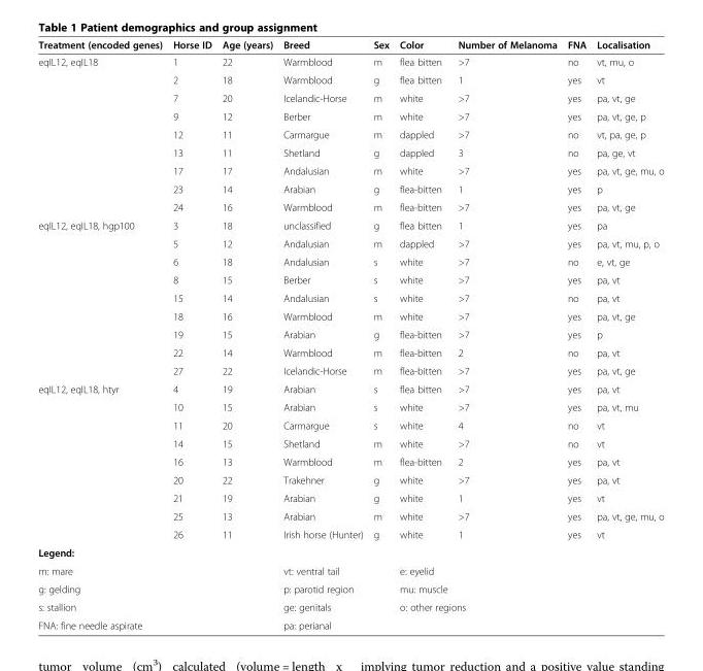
<table><thead><tr><td>Treatment (encoded genes)</td><td>Horse ID</td><td>Age (years)</td><td>Breed</td><td>Sex</td><td>Color</td><td>Number of Melanoma</td><td>FNA</td><td>Localisation</td></tr></thead><tbody><tr><td rowspan="9">eqIL12, eqIL18</td><td>1</td><td>22</td><td>Warmblood</td><td>m</td><td>flea bitten</td><td>&gt;7</td><td>no</td><td>vt, mu, o</td></tr><tr><td>2</td><td>18</td><td>Warmblood</td><td>g</td><td>flea bitten</td><td>1</td><td>yes</td><td>vt</td></tr><tr><td>7</td><td>20</td><td>Icelandic-Horse</td><td>m</td><td>white</td><td>&gt;7</td><td>yes</td><td>pa, vt, ge</td></tr><tr><td>9</td><td>12</td><td>Berber</td><td>m</td><td>white</td><td>&gt;7</td><td>yes</td><td>pa, vt, ge, p</td></tr><tr><td>12</td><td>11</td><td>Carmargue</td><td>m</td><td>dappled</td><td>&gt;7</td><td>no</td><td>vt, pa, ge, p</td></tr><tr><td>13</td><td>11</td><td>Shetland</td><td>g</td><td>dappled</td><td>3</td><td>no</td><td>pa, ge, vt</td></tr><tr><td>17</td><td>17</td><td>Andalusian</td><td>m</td><td>white</td><td>&gt;7</td><td>yes</td><td>pa, vt, ge, mu, o</td></tr><tr><td>23</td><td>14</td><td>Arabian</td><td>g</td><td>flea-bitten</td><td>1</td><td>yes</td><td>p</td></tr><tr><td>24</td><td>16</td><td>Warmblood</td><td>m</td><td>flea-bitten</td><td>&gt;7</td><td>yes</td><td>pa, vt, ge</td></tr><tr><td rowspan="9">eqIL12, eqIL18, hgp100</td><td>3</td><td>18</td><td>unclassified</td><td>g</td><td>flea bitten</td><td>1</td><td>yes</td><td>pa</td></tr><tr><td>5</td><td>12</td><td>Andalusian</td><td>m</td><td>dappled</td><td>&gt;7</td><td>yes</td><td>pa, vt, mu, p, o</td></tr><tr><td>6</td><td>18</td><td>Andalusian</td><td>s</td><td>white</td><td>&gt;7</td><td>no</td><td>e, vt, ge</td></tr><tr><td>8</td><td>15</td><td>Berber</td><td>s</td><td>white</td><td>&gt;7</td><td>yes</td><td>pa, vt</td></tr><tr><td>15</td><td>14</td><td>Andalusian</td><td>s</td><td>white</td><td>&gt;7</td><td>no</td><td>pa, vt</td></tr><tr><td>18</td><td>16</td><td>Warmblood</td><td>m</td><td>white</td><td>&gt;7</td><td>yes</td><td>pa, vt, ge</td></tr><tr><td>19</td><td>15</td><td>Arabian</td><td>g</td><td>flea-bitten</td><td>&gt;7</td><td>yes</td><td>p</td></tr><tr><td>22</td><td>14</td><td>Warmblood</td><td>m</td><td>flea-bitten</td><td>2</td><td>no</td><td>pa, vt</td></tr><tr><td>27</td><td>22</td><td>Icelandic-Horse</td><td>m</td><td>flea-bitten</td><td>&gt;7</td><td>yes</td><td>pa, vt, ge</td></tr><tr><td rowspan="9">eqIL12, eqIL18, htyr</td><td>4</td><td>19</td><td>Arabian</td><td>s</td><td>flea bitten</td><td>&gt;7</td><td>yes</td><td>pa, vt</td></tr><tr><td>10</td><td>15</td><td>Arabian</td><td>s</td><td>white</td><td>&gt;7</td><td>yes</td><td>pa, vt, mu</td></tr><tr><td>11</td><td>20</td><td>Carmargue</td><td>s</td><td>white</td><td>4</td><td>no</td><td>vt</td></tr><tr><td>14</td><td>15</td><td>Shetland</td><td>m</td><td>white</td><td>&gt;7</td><td>no</td><td>vt</td></tr><tr><td>16</td><td>13</td><td>Warmblood</td><td>m</td><td>flea-bitten</td><td>2</td><td>yes</td><td>pa, vt</td></tr><tr><td>20</td><td>22</td><td>Trakehner</td><td>g</td><td>white</td><td>&gt;7</td><td>yes</td><td>pa, vt</td></tr><tr><td>21</td><td>19</td><td>Arabian</td><td>g</td><td>white</td><td>1</td><td>yes</td><td>vt</td></tr><tr><td>25</td><td>13</td><td>Arabian</td><td>m</td><td>white</td><td>&gt;7</td><td>yes</td><td>pa, vt, ge, mu, o</td></tr><tr><td>26</td><td>11</td><td>Irish horse (Hunter)</td><td>g</td><td>white</td><td>1</td><td>yes</td><td>vt</td></tr><tr><td colspan="9">Legend:</td></tr><tr><td>m: mare</td><td></td><td></td><td colspan="2">vt: ventral tail</td><td>e: eyelid</td><td></td><td></td><td></td></tr><tr><td>g: gelding</td><td></td><td></td><td colspan="2">p: parotid region</td><td>mu: muscle</td><td></td><td></td><td></td></tr><tr><td>s: stallion</td><td></td><td></td><td colspan="2">ge: genitals</td><td colspan="2">o: other regions</td><td></td><td></td></tr><tr><td colspan="3">FNA: fine needle aspirate</td><td colspan="2">pa: perianal</td><td></td><td></td><td></td><td></td></tr></tbody></table>